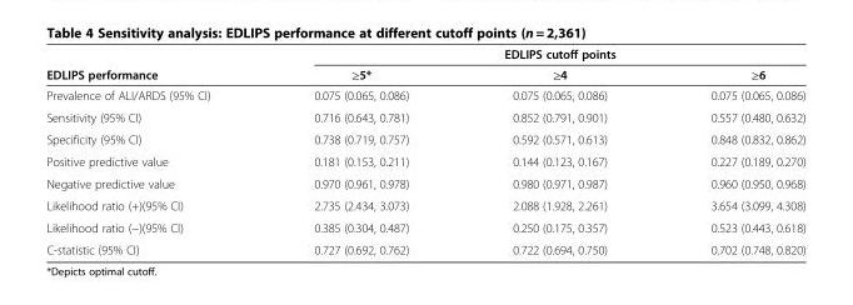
<table><thead><tr><td rowspan="2">EDLIPS performance</td><td colspan="3">EDLIPS cutoff points</td></tr><tr><td>≥5*</td><td>≥4</td><td>≥6</td></tr></thead><tbody><tr><td>Prevalence of ALI/ARDS (95% CI)</td><td>0.075 (0.065, 0.086)</td><td>0.075 (0.065, 0.086)</td><td>0.075 (0.065, 0.086)</td></tr><tr><td>Sensitivity (95% CI)</td><td>0.716 (0.643, 0.781)</td><td>0.852 (0.791, 0.901)</td><td>0.557 (0.480, 0.632)</td></tr><tr><td>Specificity (95% CI)</td><td>0.738 (0.719, 0.757)</td><td>0.592 (0.571, 0.613)</td><td>0.848 (0.832, 0.862)</td></tr><tr><td>Positive predictive value</td><td>0.181 (0.153, 0.211)</td><td>0.144 (0.123, 0.167)</td><td>0.227 (0.189, 0.270)</td></tr><tr><td>Negative predictive value</td><td>0.970 (0.961, 0.978)</td><td>0.980 (0.971, 0.987)</td><td>0.960 (0.950, 0.968)</td></tr><tr><td>Likelihood ratio (+)(95% CI)</td><td>2.735 (2.434, 3.073)</td><td>2.088 (1.928, 2.261)</td><td>3.654 (3.099, 4.308)</td></tr><tr><td>Likelihood ratio (−)(95% CI)</td><td>0.385 (0.304, 0.487)</td><td>0.250 (0.175, 0.357)</td><td>0.523 (0.443, 0.618)</td></tr><tr><td>C-statistic (95% CI)</td><td>0.727 (0.692, 0.762)</td><td>0.722 (0.694, 0.750)</td><td>0.702 (0.748, 0.820)</td></tr></tbody></table>